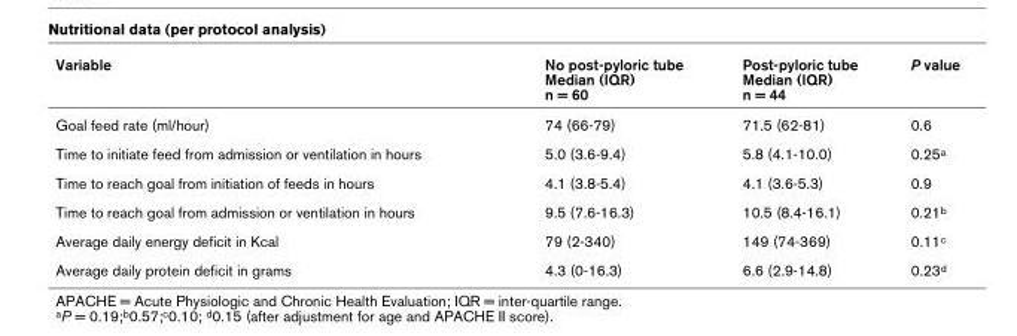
<table><thead><tr><td>Variable</td><td>No post-pyloric tube Median (IQR) n = 60</td><td>Post-pyloric tube Median (IQR) n = 44</td><td>P value</td></tr></thead><tbody><tr><td>Goal feed rate (ml/hour)</td><td>74 (66-79)</td><td>71.5 (62-81)</td><td>0.6</td></tr><tr><td>Time to initiate feed from admission or ventilation in hours</td><td>5.0 (3.6-9.4)</td><td>5.8 (4.1-10.0)</td><td>0.25<sup>a</sup></td></tr><tr><td>Time to reach goal from initiation of feeds in hours</td><td>4.1 (3.8-5.4)</td><td>4.1 (3.6-5.3)</td><td>0.9</td></tr><tr><td>Time to reach goal from admission or ventilation in hours</td><td>9.5 (7.6-16.3)</td><td>10.5 (8.4-16.1)</td><td>0.21<sup>b</sup></td></tr><tr><td>Average daily energy deficit in Kcal</td><td>79 (2-340)</td><td>149 (74-369)</td><td>0.11<sup>c</sup></td></tr><tr><td>Average daily protein deficit in grams</td><td>4.3 (0-16.3)</td><td>6.6 (2.9-14.8)</td><td>0.23<sup>d</sup></td></tr></tbody></table>